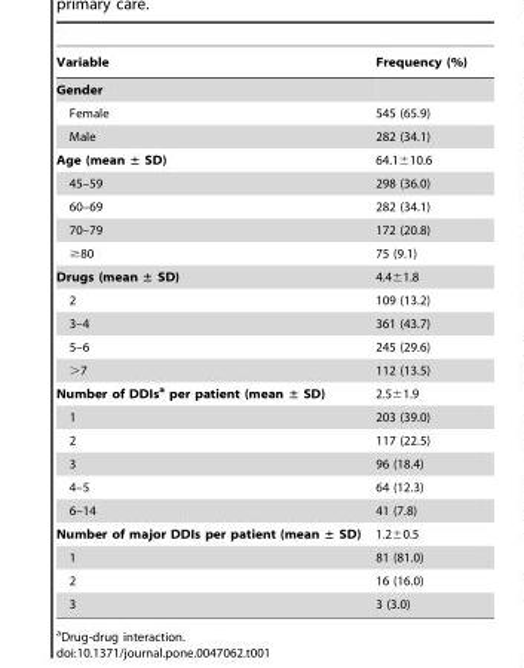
<table><thead><tr><td>Variable</td><td>Frequency (%)</td></tr></thead><tbody><tr><td colspan="2">Gender</td></tr><tr><td>Female</td><td>545 (65.9)</td></tr><tr><td>Male</td><td>282 (34.1)</td></tr><tr><td>Age (mean ± SD)</td><td>64.1±10.6</td></tr><tr><td>45–59</td><td>298 (36.0)</td></tr><tr><td>60–69</td><td>282 (34.1)</td></tr><tr><td>70–79</td><td>172 (20.8)</td></tr><tr><td>≥80</td><td>75 (9.1)</td></tr><tr><td>Drugs (mean ± SD)</td><td>4.4±1.8</td></tr><tr><td>2</td><td>109 (13.2)</td></tr><tr><td>3–4</td><td>361 (43.7)</td></tr><tr><td>5–6</td><td>245 (29.6)</td></tr><tr><td>&gt;7</td><td>112 (13.5)</td></tr><tr><td>Number of DDIsa per patient (mean ± SD)</td><td>2.5±1.9</td></tr><tr><td>1</td><td>203 (39.0)</td></tr><tr><td>2</td><td>117 (22.5)</td></tr><tr><td>3</td><td>96 (18.4)</td></tr><tr><td>4–5</td><td>64 (12.3)</td></tr><tr><td>6–14</td><td>41 (7.8)</td></tr><tr><td>Number of major DDIs per patient (mean ± SD)</td><td>1.2±0.5</td></tr><tr><td>1</td><td>81 (81.0)</td></tr><tr><td>2</td><td>16 (16.0)</td></tr><tr><td>3</td><td>3 (3.0)</td></tr></tbody></table>